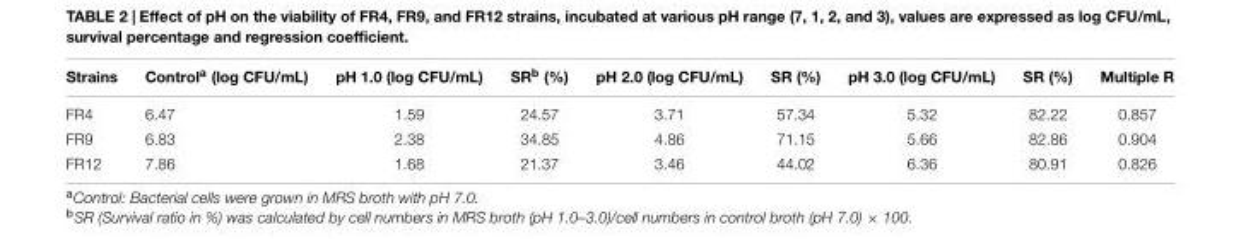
<table><thead><tr><td>Strains</td><td>Control<sup>a</sup> (log CFU/mL)</td><td>pH 1.0 (log CFU/mL)</td><td>SR<sup>b</sup> (%)</td><td>pH 2.0 (log CFU/mL)</td><td>SR (%)</td><td>pH 3.0 (log CFU/mL)</td><td>SR (%)</td><td>Multiple R</td></tr></thead><tbody><tr><td>FR4</td><td>6.47</td><td>1.59</td><td>24.57</td><td>3.71</td><td>57.34</td><td>5.32</td><td>82.22</td><td>0.857</td></tr><tr><td>FR9</td><td>6.83</td><td>2.38</td><td>34.85</td><td>4.86</td><td>71.15</td><td>5.66</td><td>82.86</td><td>0.904</td></tr><tr><td>FR12</td><td>7.86</td><td>1.68</td><td>21.37</td><td>3.46</td><td>44.02</td><td>6.36</td><td>80.91</td><td>0.826</td></tr></tbody></table>